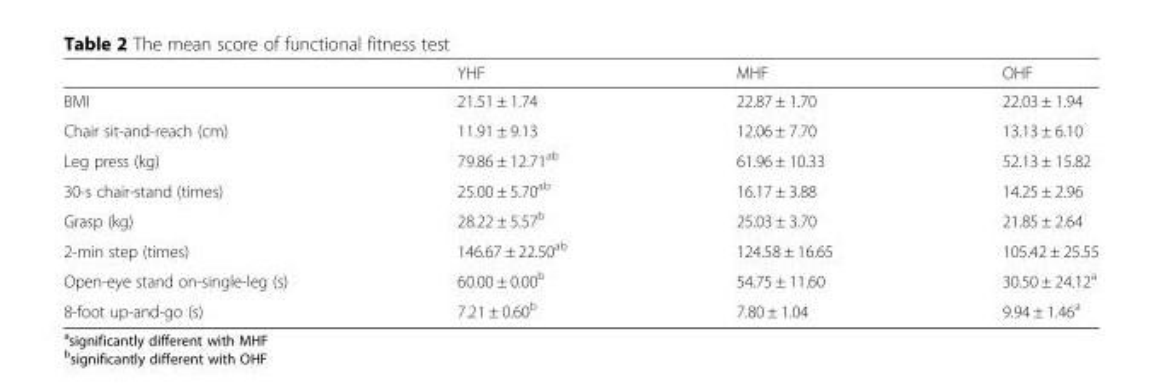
<table><thead><tr><td></td><td>YHF</td><td>MHF</td><td>OHF</td></tr></thead><tbody><tr><td>BMI</td><td>21.51 ± 1.74</td><td>22.87 ± 1.70</td><td>22.03 ± 1.94</td></tr><tr><td>Chair sit-and-reach (cm)</td><td>11.91 ± 9.13</td><td>12.06 ± 7.70</td><td>13.13 ± 6.10</td></tr><tr><td>Leg press (kg)</td><td>79.86 ± 12.71<sup>ab</sup></td><td>61.96 ± 10.33</td><td>52.13 ± 15.82</td></tr><tr><td>30-s chair-stand (times)</td><td>25.00 ± 5.70<sup>ab</sup></td><td>16.17 ± 3.88</td><td>14.25 ± 2.96</td></tr><tr><td>Grasp (kg)</td><td>28.22 ± 5.57<sup>b</sup></td><td>25.03 ± 3.70</td><td>21.85 ± 2.64</td></tr><tr><td>2-min step (times)</td><td>146.67 ± 22.50<sup>ab</sup></td><td>124.58 ± 16.65</td><td>105.42 ± 25.55</td></tr><tr><td>Open-eye stand on-single-leg (s)</td><td>60.00 ± 0.00<sup>b</sup></td><td>54.75 ± 11.60</td><td>30.50 ± 24.12<sup>a</sup></td></tr><tr><td>8-foot up-and-go (s)</td><td>7.21 ± 0.60<sup>b</sup></td><td>7.80 ± 1.04</td><td>9.94 ± 1.46<sup>a</sup></td></tr></tbody></table>